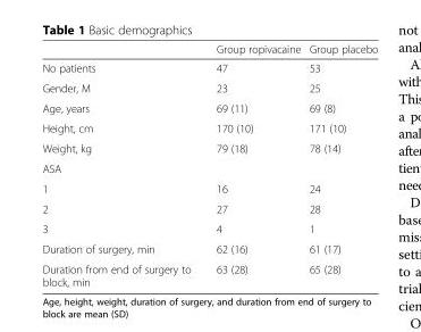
<table><thead><tr><td></td><td>Group ropivacaine</td><td>Group placebo</td></tr></thead><tbody><tr><td>No patients</td><td>47</td><td>53</td></tr><tr><td>Gender, M</td><td>23</td><td>25</td></tr><tr><td>Age, years</td><td>69 (11)</td><td>69 (8)</td></tr><tr><td>Height, cm</td><td>170 (10)</td><td>171 (10)</td></tr><tr><td>Weight, kg</td><td>79 (18)</td><td>78 (14)</td></tr><tr><td colspan="3">ASA</td></tr><tr><td>1</td><td>16</td><td>24</td></tr><tr><td>2</td><td>27</td><td>28</td></tr><tr><td>3</td><td>4</td><td>1</td></tr><tr><td>Duration of surgery, min</td><td>62 (16)</td><td>61 (17)</td></tr><tr><td>Duration from end of surgery to block, min</td><td>63 (28)</td><td>65 (28)</td></tr></tbody></table>